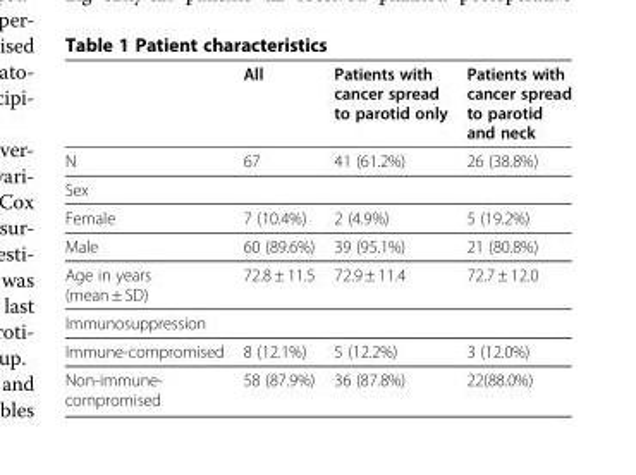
<table><thead><tr><td></td><td>All</td><td>Patients with cancer spread to parotid only</td><td>Patients with cancer spread to parotid and neck</td></tr></thead><tbody><tr><td>N</td><td>67</td><td>41 (61.2%)</td><td>26 (38.8%)</td></tr><tr><td colspan="4">Sex</td></tr><tr><td>Female</td><td>7 (10.4%)</td><td>2 (4.9%)</td><td>5 (19.2%)</td></tr><tr><td>Male</td><td>60 (89.6%)</td><td>39 (95.1%)</td><td>21 (80.8%)</td></tr><tr><td>Age in years (mean ± SD)</td><td>72.8 ± 11.5</td><td>72.9 ± 11.4</td><td>72.7 ± 12.0</td></tr><tr><td colspan="4">Immunosuppression</td></tr><tr><td>Immune-compromised</td><td>8 (12.1%)</td><td>5 (12.2%)</td><td>3 (12.0%)</td></tr><tr><td>Non-immune- compromised</td><td>58 (87.9%)</td><td>36 (87.8%)</td><td>22(88.0%)</td></tr></tbody></table>